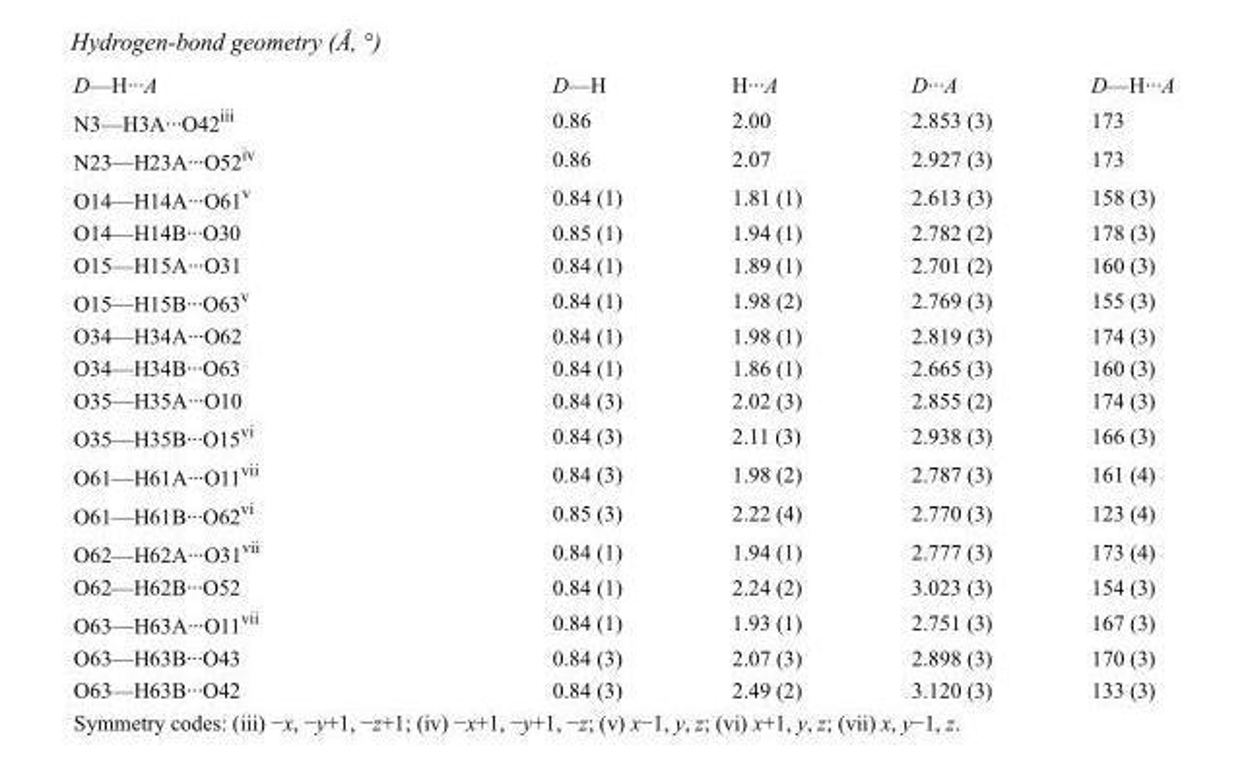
<table><tbody><tr><td>D—H···A</td><td>D—H</td><td>H···A</td><td>D···A</td><td>D—H···A</td></tr><tr><td>N3—H3A···O42<sup>iii</sup></td><td>0.86</td><td>2.00</td><td>2.853 (3)</td><td>173</td></tr><tr><td>N23—H23A···O52<sup>iv</sup></td><td>0.86</td><td>2.07</td><td>2.927 (3)</td><td>173</td></tr><tr><td>O14—H14A···O61<sup>v</sup></td><td>0.84 (1)</td><td>1.81 (1)</td><td>2.613 (3)</td><td>158 (3)</td></tr><tr><td>O14—H14B···O30</td><td>0.85 (1)</td><td>1.94 (1)</td><td>2.782 (2)</td><td>178 (3)</td></tr><tr><td>O15—H15A···O31</td><td>0.84 (1)</td><td>1.89 (1)</td><td>2.701 (2)</td><td>160 (3)</td></tr><tr><td>O15—H15B···O63<sup>v</sup></td><td>0.84 (1)</td><td>1.98 (2)</td><td>2.769 (3)</td><td>155 (3)</td></tr><tr><td>O34—H34A···O62</td><td>0.84 (1)</td><td>1.98 (1)</td><td>2.819 (3)</td><td>174 (3)</td></tr><tr><td>O34—H34B···O63</td><td>0.84 (1)</td><td>1.86 (1)</td><td>2.665 (3)</td><td>160 (3)</td></tr><tr><td>O35—H35A···O10</td><td>0.84 (3)</td><td>2.02 (3)</td><td>2.855 (2)</td><td>174 (3)</td></tr><tr><td>O35—H35B···O15<sup>vi</sup></td><td>0.84 (3)</td><td>2.11 (3)</td><td>2.938 (3)</td><td>166 (3)</td></tr><tr><td>O61—H61A···O11<sup>vii</sup></td><td>0.84 (3)</td><td>1.98 (2)</td><td>2.787 (3)</td><td>161 (4)</td></tr><tr><td>O61—H61B···O62<sup>vi</sup></td><td>0.85 (3)</td><td>2.22 (4)</td><td>2.770 (3)</td><td>123 (4)</td></tr><tr><td>O62—H62A···O31<sup>vii</sup></td><td>0.84 (1)</td><td>1.94 (1)</td><td>2.777 (3)</td><td>173 (4)</td></tr><tr><td>O62—H62B···O52</td><td>0.84 (1)</td><td>2.24 (2)</td><td>3.023 (3)</td><td>154 (3)</td></tr><tr><td>O63—H63A···O11<sup>vii</sup></td><td>0.84 (1)</td><td>1.93 (1)</td><td>2.751 (3)</td><td>167 (3)</td></tr><tr><td>O63—H63B···O43</td><td>0.84 (3)</td><td>2.07 (3)</td><td>2.898 (3)</td><td>170 (3)</td></tr><tr><td>O63—H63B···O42</td><td>0.84 (3)</td><td>2.49 (2)</td><td>3.120 (3)</td><td>133 (3)</td></tr></tbody></table>